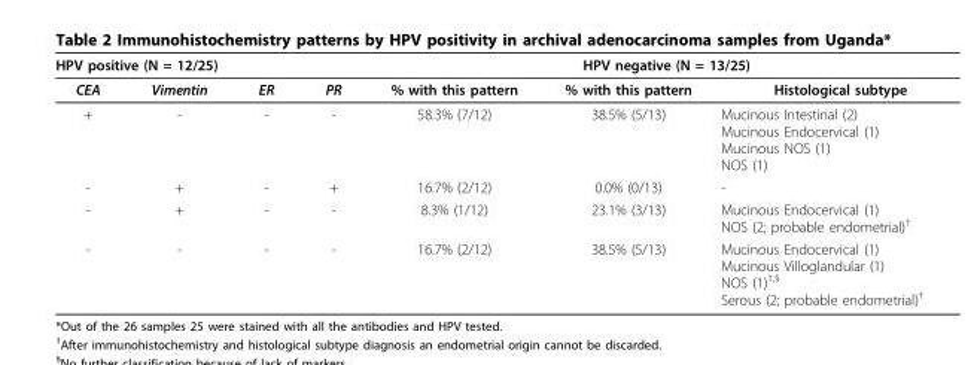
<table><thead><tr><td colspan="4">HPV positive (N = 12/25)</td><td colspan="3">HPV negative (N = 13/25)</td></tr><tr><td>CEA</td><td>Vimentin</td><td>ER</td><td>PR</td><td>% with this pattern</td><td>% with this pattern</td><td>Histological subtype</td></tr></thead><tbody><tr><td>+</td><td>-</td><td>-</td><td>-</td><td>58.3% (7/12)</td><td>38.5% (5/13)</td><td>Mucinous Intestinal (2) Mucinous Endocervical (1) Mucinous NOS (1) NOS (1)</td></tr><tr><td>-</td><td>+</td><td>-</td><td>+</td><td>16.7% (2/12)</td><td>0.0% (0/13)</td><td>-</td></tr><tr><td>-</td><td>+</td><td>-</td><td>-</td><td>8.3% (1/12)</td><td>23.1% (3/13)</td><td>Mucinous Endocervical (1) NOS (2; probable endometrial)<sup>†</sup></td></tr><tr><td>-</td><td>-</td><td>-</td><td>-</td><td>16.7% (2/12)</td><td>38.5% (5/13)</td><td>Mucinous Endocervical (1) Mucinous Villoglandular (1) NOS (1)<sup>†,§</sup> Serous (2; probable endometrial)<sup>†</sup></td></tr></tbody></table>